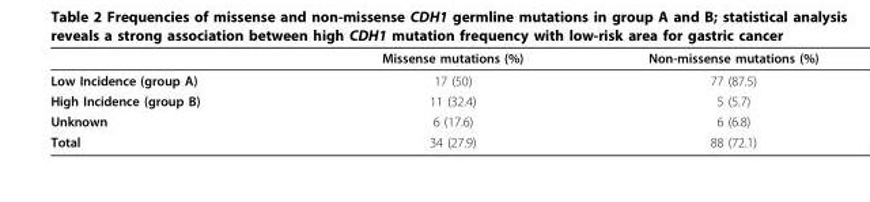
<table><thead><tr><td></td><td>Missense mutations (%)</td><td>Non-missense mutations (%)</td></tr></thead><tbody><tr><td>Low Incidence (group A)</td><td>17 (50)</td><td>77 (87.5)</td></tr><tr><td>High Incidence (group B)</td><td>11 (32.4)</td><td>5 (5.7)</td></tr><tr><td>Unknown</td><td>6 (17.6)</td><td>6 (6.8)</td></tr><tr><td>Total</td><td>34 (27.9)</td><td>88 (72.1)</td></tr></tbody></table>